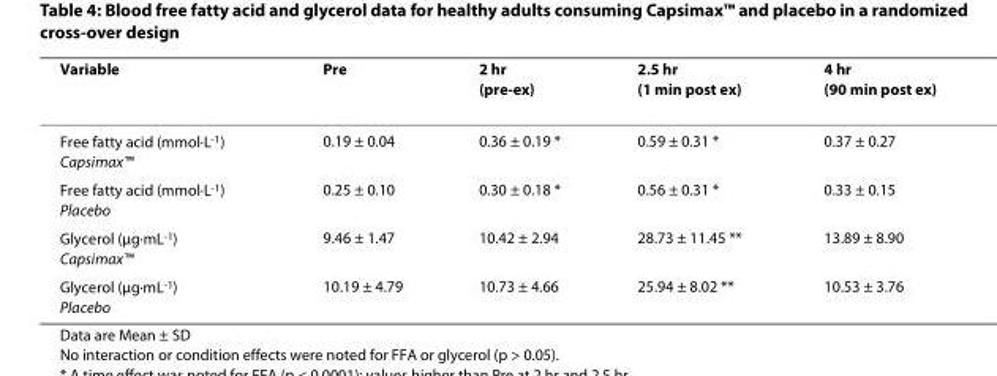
<table><thead><tr><td>Variable</td><td>Pre</td><td>2 hr (pre-ex)</td><td>2.5 hr (1 min post ex)</td><td>4 hr (90 min post ex)</td></tr></thead><tbody><tr><td>Free fatty acid (mmol·L<sup>-1</sup>) Capsimax™</td><td>0.19 ± 0.04</td><td>0.36 ± 0.19 *</td><td>0.59 ± 0.31 *</td><td>0.37 ± 0.27</td></tr><tr><td>Free fatty acid (mmol·L<sup>-1</sup>) Placebo</td><td>0.25 ± 0.10</td><td>0.30 ± 0.18 *</td><td>0.56 ± 0.31 *</td><td>0.33 ± 0.15</td></tr><tr><td>Glycerol (μg·mL<sup>-1</sup>) Capsimax™</td><td>9.46 ± 1.47</td><td>10.42 ± 2.94</td><td>28.73 ± 11.45 **</td><td>13.89 ± 8.90</td></tr><tr><td>Glycerol (μg·mL<sup>-1</sup>) Placebo</td><td>10.19 ± 4.79</td><td>10.73 ± 4.66</td><td>25.94 ± 8.02 **</td><td>10.53 ± 3.76</td></tr></tbody></table>